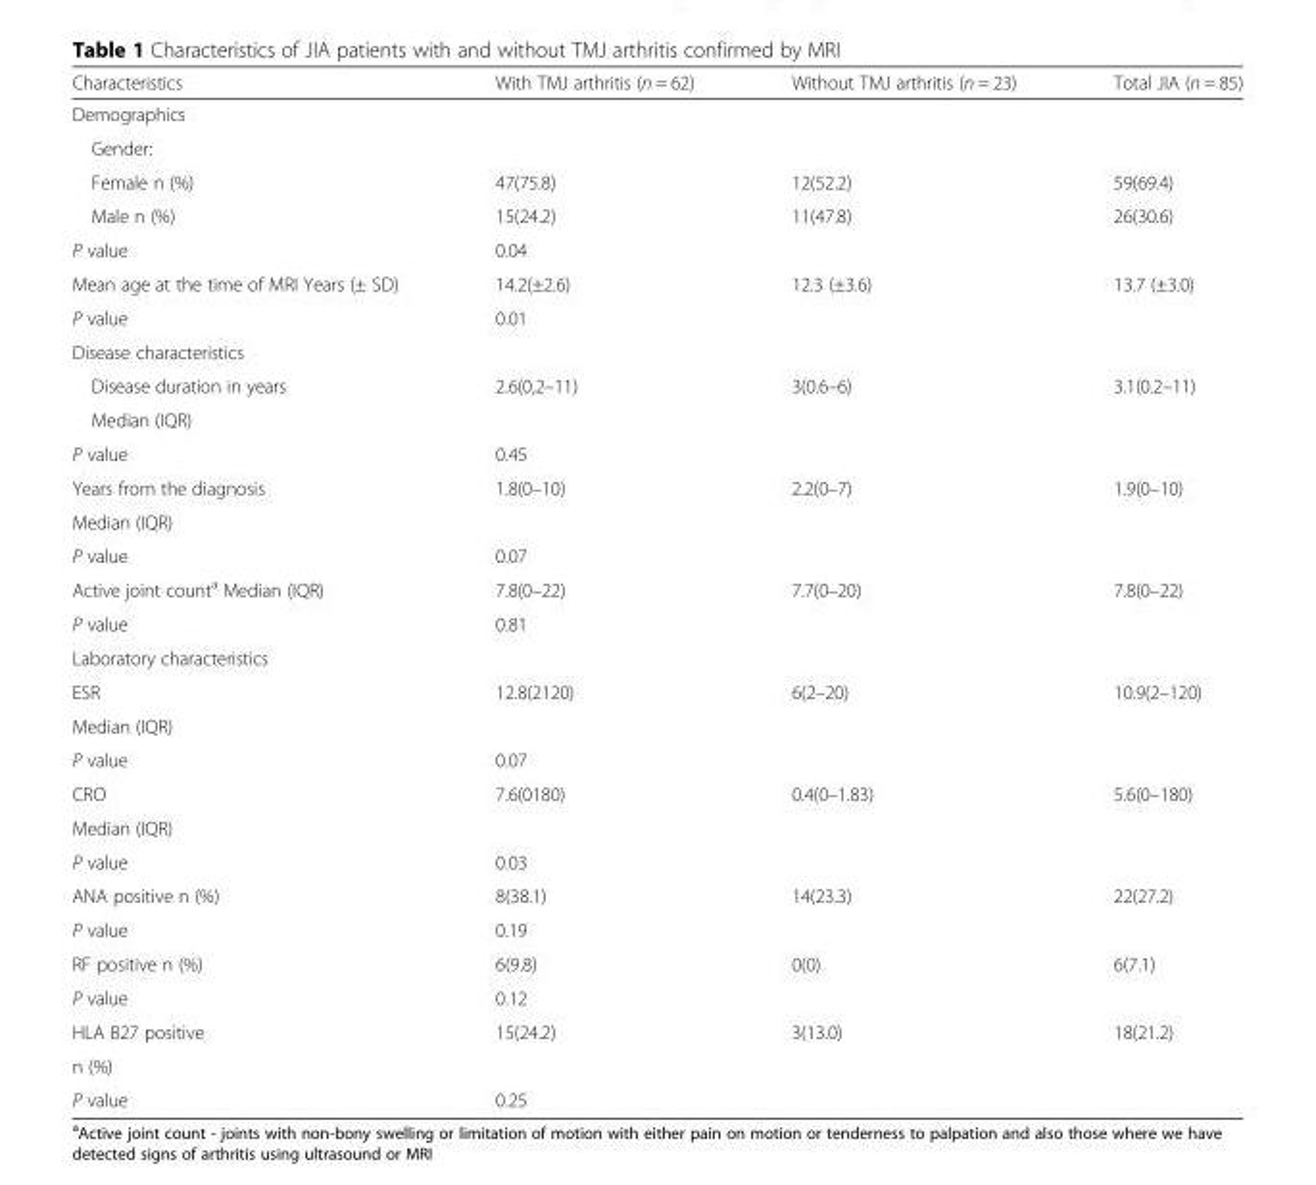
<table><thead><tr><td>Characteristics</td><td>With TMJ arthritis (n = 62)</td><td>Without TMJ arthritis (n = 23)</td><td>Total JIA (n = 85)</td></tr></thead><tbody><tr><td colspan="4">Demographics</td></tr><tr><td colspan="4">Gender:</td></tr><tr><td>Female n (%)</td><td>47(75.8)</td><td>12(52.2)</td><td>59(69.4)</td></tr><tr><td>Male n (%)</td><td>15(24.2)</td><td>11(47.8)</td><td>26(30.6)</td></tr><tr><td>P value</td><td colspan="2">0.04</td><td></td></tr><tr><td>Mean age at the time of MRI Years (± SD)</td><td>14.2(±2.6)</td><td>12.3 (±3.6)</td><td>13.7 (±3.0)</td></tr><tr><td>P value</td><td colspan="2">0.01</td><td></td></tr><tr><td colspan="4">Disease characteristics</td></tr><tr><td>Disease duration in years</td><td rowspan="2">2.6(0,2–11)</td><td rowspan="2">3(0.6–6)</td><td rowspan="2">3.1(0.2–11)</td></tr><tr><td>Median (IQR)</td></tr><tr><td>P value</td><td colspan="2">0.45</td><td></td></tr><tr><td>Years from the diagnosis</td><td rowspan="2">1.8(0–10)</td><td rowspan="2">2.2(0–7)</td><td rowspan="2">1.9(0–10)</td></tr><tr><td>Median (IQR)</td></tr><tr><td>P value</td><td colspan="2">0.07</td><td></td></tr><tr><td>Active joint count<sup>a</sup> Median (IQR)</td><td>7.8(0–22)</td><td>7.7(0–20)</td><td>7.8(0–22)</td></tr><tr><td>P value</td><td colspan="2">0.81</td><td></td></tr><tr><td colspan="4">Laboratory characteristics</td></tr><tr><td>ESR</td><td rowspan="2">12.8(2120)</td><td rowspan="2">6(2–20)</td><td rowspan="2">10.9(2–120)</td></tr><tr><td>Median (IQR)</td></tr><tr><td>P value</td><td colspan="2">0.07</td><td></td></tr><tr><td>CRO</td><td rowspan="2">7.6(0180)</td><td rowspan="2">0.4(0–1.83)</td><td rowspan="2">5.6(0–180)</td></tr><tr><td>Median (IQR)</td></tr><tr><td>P value</td><td colspan="2">0.03</td><td></td></tr><tr><td>ANA positive n (%)</td><td>8(38.1)</td><td>14(23.3)</td><td>22(27.2)</td></tr><tr><td>P value</td><td colspan="2">0.19</td><td></td></tr><tr><td>RF positive n (%)</td><td>6(9.8)</td><td>0(0)</td><td>6(7.1)</td></tr><tr><td>P value</td><td colspan="2">0.12</td><td></td></tr><tr><td>HLA B27 positive</td><td rowspan="2">15(24.2)</td><td rowspan="2">3(13.0)</td><td rowspan="2">18(21.2)</td></tr><tr><td>n (%)</td></tr><tr><td>P value</td><td colspan="2">0.25</td><td></td></tr></tbody></table>